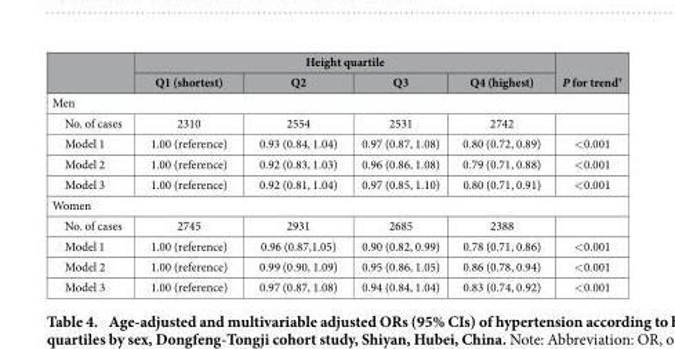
<table><thead><tr><td rowspan="2"></td><td colspan="4">Height quartile</td><td rowspan="2">P for trend<sup>†</sup></td></tr><tr><td>Q1 (shortest)</td><td>Q2</td><td>Q3</td><td>Q4 (highest)</td></tr></thead><tbody><tr><td colspan="6">Men</td></tr><tr><td>No. of cases</td><td>2310</td><td>2554</td><td>2531</td><td>2742</td><td></td></tr><tr><td>Model 1</td><td>1.00 (reference)</td><td>0.93 (0.84, 1.04)</td><td>0.97 (0.87, 1.08)</td><td>0.80 (0.72, 0.89)</td><td>&lt; 0.001</td></tr><tr><td>Model 2</td><td>1.00 (reference)</td><td>0.92 (0.83, 1.03)</td><td>0.96 (0.86, 1.08)</td><td>0.79 (0.71, 0.88)</td><td>&lt; 0.001</td></tr><tr><td>Model 3</td><td>1.00 (reference)</td><td>0.92 (0.81, 1.04)</td><td>0.97 (0.85, 1.10)</td><td>0.80 (0.71, 0.91)</td><td>&lt; 0.001</td></tr><tr><td colspan="6">Women</td></tr><tr><td>No. of cases</td><td>2745</td><td>2931</td><td>2685</td><td>2388</td><td></td></tr><tr><td>Model 1</td><td>1.00 (reference)</td><td>0.96 (0.87,1.05)</td><td>0.90 (0.82, 0.99)</td><td>0.78 (0.71, 0.86)</td><td>&lt; 0.001</td></tr><tr><td>Model 2</td><td>1.00 (reference)</td><td>0.99 (0.90, 1.09)</td><td>0.95 (0.86, 1.05)</td><td>0.86 (0.78, 0.94)</td><td>&lt; 0.001</td></tr><tr><td>Model 3</td><td>1.00 (reference)</td><td>0.97 (0.87, 1.08)</td><td>0.94 (0.84, 1.04)</td><td>0.83 (0.74, 0.92)</td><td>&lt; 0.001</td></tr></tbody></table>